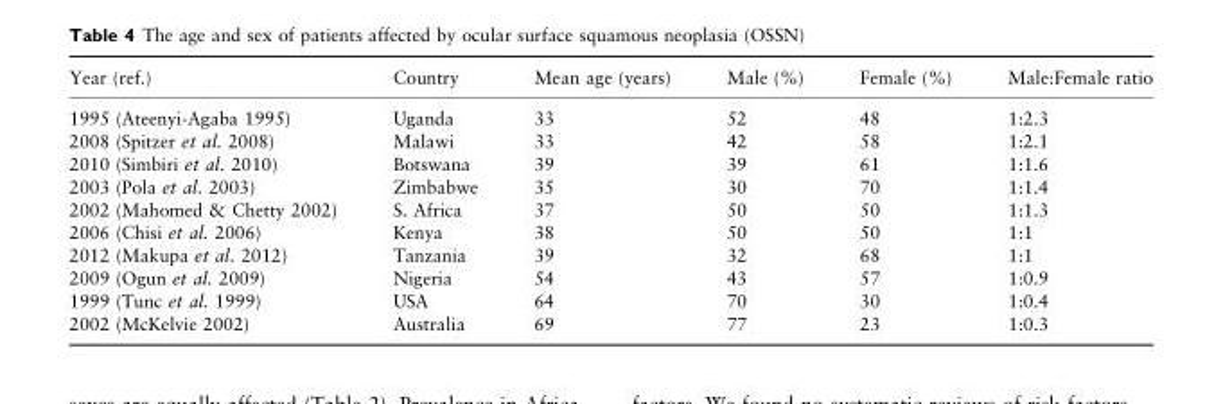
<table><thead><tr><td>Year (ref.)</td><td>Country</td><td>Mean age (years)</td><td>Male (%)</td><td>Female (%)</td><td>Male:Female ratio</td></tr></thead><tbody><tr><td>1995 (Ateenyi-Agaba 1995)</td><td>Uganda</td><td>33</td><td>52</td><td>48</td><td>1:2.3</td></tr><tr><td>2008 (Spitzer et al. 2008)</td><td>Malawi</td><td>33</td><td>42</td><td>58</td><td>1:2.1</td></tr><tr><td>2010 (Simbiri et al. 2010)</td><td>Botswana</td><td>39</td><td>39</td><td>61</td><td>1:1.6</td></tr><tr><td>2003 (Pola et al. 2003)</td><td>Zimbabwe</td><td>35</td><td>30</td><td>70</td><td>1:1.4</td></tr><tr><td>2002 (Mahomed &amp; Chetty 2002)</td><td>S. Africa</td><td>37</td><td>50</td><td>50</td><td>1:1.3</td></tr><tr><td>2006 (Chisi et al. 2006)</td><td>Kenya</td><td>38</td><td>50</td><td>50</td><td>1:1</td></tr><tr><td>2012 (Makupa et al. 2012)</td><td>Tanzania</td><td>39</td><td>32</td><td>68</td><td>1:1</td></tr><tr><td>2009 (Ogun et al. 2009)</td><td>Nigeria</td><td>54</td><td>43</td><td>57</td><td>1:0.9</td></tr><tr><td>1999 (Tunc et al. 1999)</td><td>USA</td><td>64</td><td>70</td><td>30</td><td>1:0.4</td></tr><tr><td>2002 (McKelvie 2002)</td><td>Australia</td><td>69</td><td>77</td><td>23</td><td>1:0.3</td></tr></tbody></table>